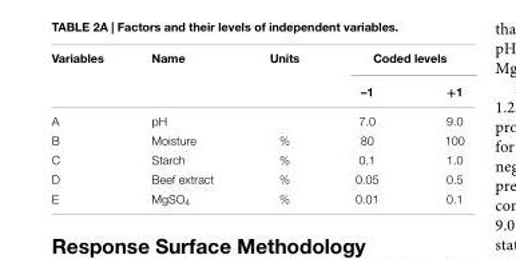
<table><thead><tr><td rowspan="2">Variables</td><td rowspan="2">Name</td><td rowspan="2">Units</td><td colspan="2">Coded levels</td></tr><tr><td>–1</td><td>+1</td></tr></thead><tbody><tr><td>A</td><td>pH</td><td></td><td>7.0</td><td>9.0</td></tr><tr><td>B</td><td>Moisture</td><td>%</td><td>80</td><td>100</td></tr><tr><td>C</td><td>Starch</td><td>%</td><td>0.1</td><td>1.0</td></tr><tr><td>D</td><td>Beef extract</td><td>%</td><td>0.05</td><td>0.5</td></tr><tr><td>E</td><td>MgSO<sub>4</sub></td><td>%</td><td>0.01</td><td>0.1</td></tr></tbody></table>